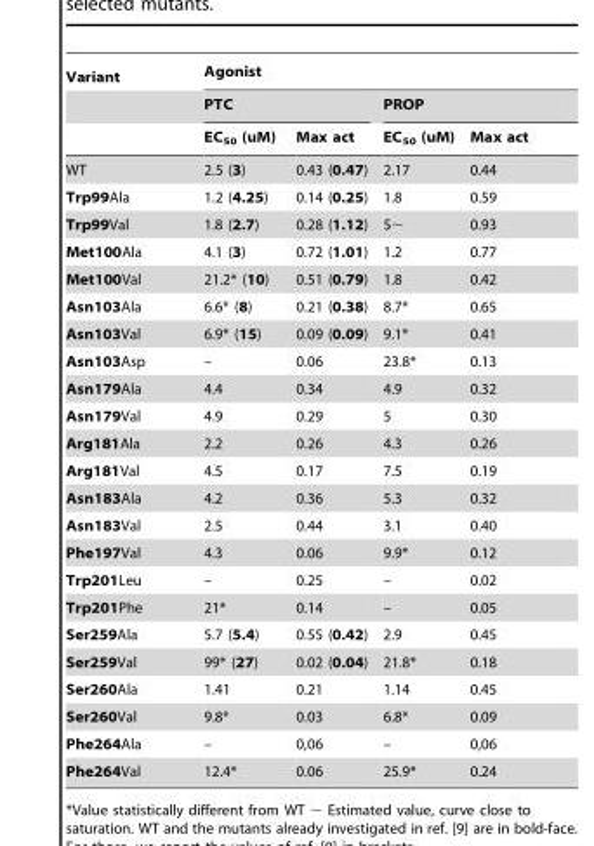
<table><thead><tr><td rowspan="3">Variant</td><td colspan="4">Agonist</td></tr><tr><td colspan="2">PTC</td><td colspan="2">PROP</td></tr><tr><td>EC<sub>50</sub> (uM)</td><td>Max act</td><td>EC<sub>50</sub> (uM)</td><td>Max act</td></tr></thead><tbody><tr><td>WT</td><td>2.5 (3)</td><td>0.43 (0.47)</td><td>2.17</td><td>0.44</td></tr><tr><td>Trp99Ala</td><td>1.2 (4.25)</td><td>0.14 (0.25)</td><td>1.8</td><td>0.59</td></tr><tr><td>Trp99Val</td><td>1.8 (2.7)</td><td>0.28 (1.12)</td><td>5∼</td><td>0.93</td></tr><tr><td>Met100Ala</td><td>4.1 (3)</td><td>0.72 (1.01)</td><td>1.2</td><td>0.77</td></tr><tr><td>Met100Val</td><td>21.2* (10)</td><td>0.51 (0.79)</td><td>1.8</td><td>0.42</td></tr><tr><td>Asn103Ala</td><td>6.6* (8)</td><td>0.21 (0.38)</td><td>8.7*</td><td>0.65</td></tr><tr><td>Asn103Val</td><td>6.9* (15)</td><td>0.09 (0.09)</td><td>9.1*</td><td>0.41</td></tr><tr><td>Asn103Asp</td><td>–</td><td>0.06</td><td>23.8*</td><td>0.13</td></tr><tr><td>Asn179Ala</td><td>4.4</td><td>0.34</td><td>4.9</td><td>0.32</td></tr><tr><td>Asn179Val</td><td>4.9</td><td>0.29</td><td>5</td><td>0.30</td></tr><tr><td>Arg181Ala</td><td>2.2</td><td>0.26</td><td>4.3</td><td>0.26</td></tr><tr><td>Arg181Val</td><td>4.5</td><td>0.17</td><td>7.5</td><td>0.19</td></tr><tr><td>Asn183Ala</td><td>4.2</td><td>0.36</td><td>5.3</td><td>0.32</td></tr><tr><td>Asn183Val</td><td>2.5</td><td>0.44</td><td>3.1</td><td>0.40</td></tr><tr><td>Phe197Val</td><td>4.3</td><td>0.06</td><td>9.9*</td><td>0.12</td></tr><tr><td>Trp201Leu</td><td>–</td><td>0.25</td><td>–</td><td>0.02</td></tr><tr><td>Trp201Phe</td><td>21*</td><td>0.14</td><td>–</td><td>0.05</td></tr><tr><td>Ser259Ala</td><td>5.7 (5.4)</td><td>0.55 (0.42)</td><td>2.9</td><td>0.45</td></tr><tr><td>Ser259Val</td><td>99* (27)</td><td>0.02 (0.04)</td><td>21.8*</td><td>0.18</td></tr><tr><td>Ser260Ala</td><td>1.41</td><td>0.21</td><td>1.14</td><td>0.45</td></tr><tr><td>Ser260Val</td><td>9.8*</td><td>0.03</td><td>6.8*</td><td>0.09</td></tr><tr><td>Phe264Ala</td><td>–</td><td>0,06</td><td>–</td><td>0,06</td></tr><tr><td>Phe264Val</td><td>12.4*</td><td>0.06</td><td>25.9*</td><td>0.24</td></tr></tbody></table>